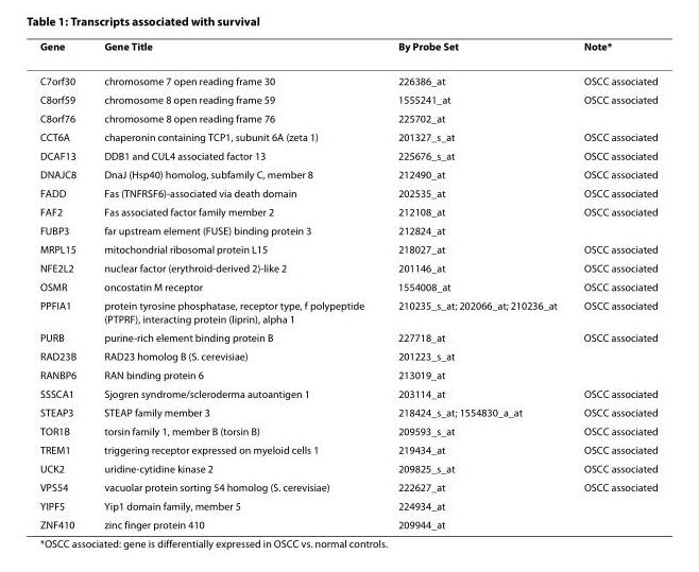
<table><thead><tr><td>Gene</td><td>Gene Title</td><td>By Probe Set</td><td>Note*</td></tr></thead><tbody><tr><td>C7orf30</td><td>chromosome 7 open reading frame 30</td><td>226386_at</td><td>OSCC associated</td></tr><tr><td>C8orf59</td><td>chromosome 8 open reading frame 59</td><td>1555241_at</td><td>OSCC associated</td></tr><tr><td>C8orf76</td><td>chromosome 8 open reading frame 76</td><td>225702_at</td><td></td></tr><tr><td>CCT6A</td><td>chaperonin containing TCP1, subunit 6A (zeta 1)</td><td>201327_s_at</td><td>OSCC associated</td></tr><tr><td>DCAF13</td><td>DDB1 and CUL4 associated factor 13</td><td>225676_s_at</td><td>OSCC associated</td></tr><tr><td>DNAJC8</td><td>DnaJ (Hsp40) homolog, subfamily C, member 8</td><td>212490_at</td><td>OSCC associated</td></tr><tr><td>FADD</td><td>Fas (TNFRSF6)-associated via death domain</td><td>202535_at</td><td>OSCC associated</td></tr><tr><td>FAF2</td><td>Fas associated factor family member 2</td><td>212108_at</td><td>OSCC associated</td></tr><tr><td>FUBP3</td><td>far upstream element (FUSE) binding protein 3</td><td>212824_at</td><td></td></tr><tr><td>MRPL15</td><td>mitochondrial ribosomal protein L15</td><td>218027_at</td><td>OSCC associated</td></tr><tr><td>NFE2L2</td><td>nuclear factor (erythroid-derived 2)-like 2</td><td>201146_at</td><td>OSCC associated</td></tr><tr><td>OSMR</td><td>oncostatin M receptor</td><td>1554008_at</td><td>OSCC associated</td></tr><tr><td>PPFIA1</td><td>protein tyrosine phosphatase, receptor type, f polypeptide (PTPRF), interacting protein (liprin), alpha 1</td><td>210235_s_at; 202066_at; 210236_at</td><td>OSCC associated</td></tr><tr><td>PURB</td><td>purine-rich element binding protein B</td><td>227718_at</td><td>OSCC associated</td></tr><tr><td>RAD23B</td><td>RAD23 homolog B (S. cerevisiae)</td><td>201223_s_at</td><td></td></tr><tr><td>RANBP6</td><td>RAN binding protein 6</td><td>213019_at</td><td></td></tr><tr><td>SSSCA1</td><td>Sjogren syndrome/scleroderma autoantigen 1</td><td>203114_at</td><td>OSCC associated</td></tr><tr><td>STEAP3</td><td>STEAP family member 3</td><td>218424_s_at; 1554830_a_at</td><td>OSCC associated</td></tr><tr><td>TOR1B</td><td>torsin family 1, member B (torsin B)</td><td>209593_s_at</td><td>OSCC associated</td></tr><tr><td>TREM1</td><td>triggering receptor expressed on myeloid cells 1</td><td>219434_at</td><td>OSCC associated</td></tr><tr><td>UCK2</td><td>uridine-cytidine kinase 2</td><td>209825_s_at</td><td>OSCC associated</td></tr><tr><td>VPS54</td><td>vacuolar protein sorting 54 homolog (S. cerevisiae)</td><td>222627_at</td><td>OSCC associated</td></tr><tr><td>YIPF5</td><td>Yip1 domain family, member 5</td><td>224934_at</td><td></td></tr><tr><td>ZNF410</td><td>zinc finger protein 410</td><td>209944_at</td><td></td></tr></tbody></table>